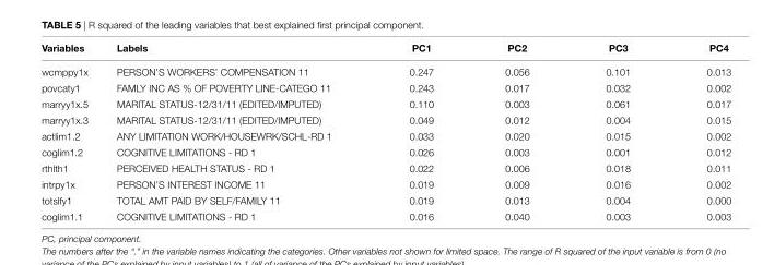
<table><thead><tr><td>Variables</td><td>labels</td><td>Pc1</td><td>Pc2</td><td>Pc3</td><td>Pc4</td></tr></thead><tbody><tr><td>wcmppy1x</td><td>PERSON’S WORKERS’ COMPENSATION 11</td><td>0.247</td><td>0.056</td><td>0.101</td><td>0.013</td></tr><tr><td>povcaty1</td><td>FAMLY INC AS % OF POVERTY LINE-CATEGO 11</td><td>0.243</td><td>0.017</td><td>0.032</td><td>0.002</td></tr><tr><td>marryy1x.5</td><td>MARITAL STATUS-12/31/11 (EDITED/IMPUTED)</td><td>0.110</td><td>0.003</td><td>0.061</td><td>0.017</td></tr><tr><td>marryy1x.3</td><td>MARITAL STATUS-12/31/11 (EDITED/IMPUTED)</td><td>0.049</td><td>0.012</td><td>0.004</td><td>0.015</td></tr><tr><td>actlim1.2</td><td>ANY LIMITATION WORK/HOUSEWRK/SCHL-RD 1</td><td>0.033</td><td>0.020</td><td>0.015</td><td>0.002</td></tr><tr><td>coglim1.2</td><td>COGNITIVE LIMITATIONS - RD 1</td><td>0.026</td><td>0.003</td><td>0.001</td><td>0.012</td></tr><tr><td>rthlth1</td><td>PERCEIVED HEALTH STATUS - RD 1</td><td>0.022</td><td>0.006</td><td>0.018</td><td>0.011</td></tr><tr><td>intrpy1x</td><td>PERSON’S INTEREST INCOME 11</td><td>0.019</td><td>0.009</td><td>0.016</td><td>0.002</td></tr><tr><td>totslfy1</td><td>TOTAL AMT PAID BY SELF/FAMILY 11</td><td>0.019</td><td>0.013</td><td>0.004</td><td>0.000</td></tr><tr><td>coglim1.1</td><td>COGNITIVE LIMITATIONS - RD 1</td><td>0.016</td><td>0.040</td><td>0.003</td><td>0.003</td></tr></tbody></table>